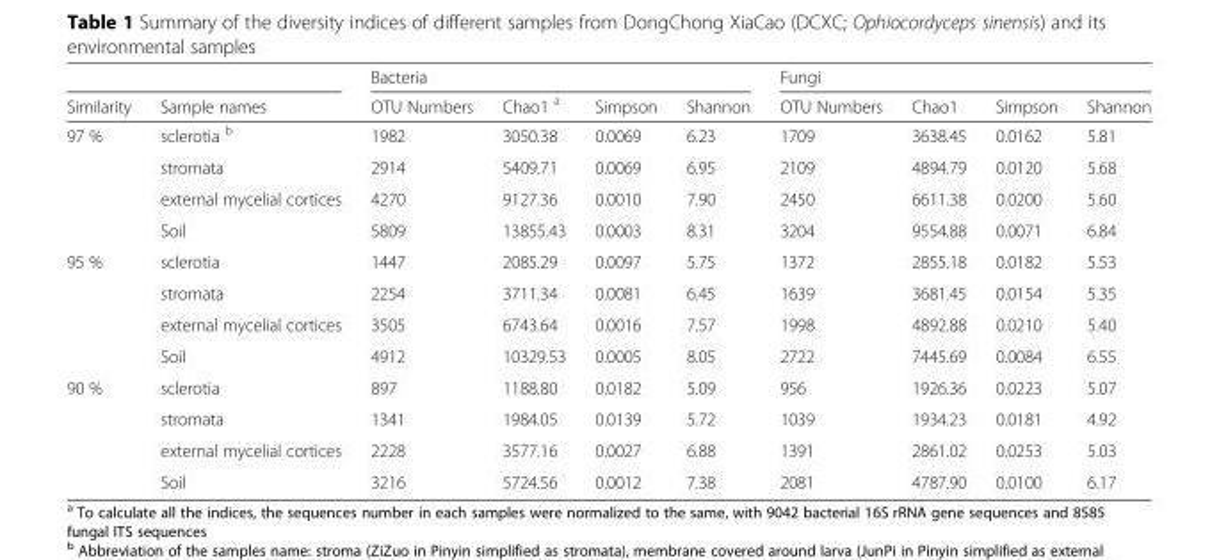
<table><thead><tr><td rowspan="2">Similarity</td><td rowspan="2">Sample names</td><td colspan="4">Bacteria</td><td colspan="4">Fungi</td></tr><tr><td>OTU Numbers</td><td>Chao1 <sup>a</sup></td><td>Simpson</td><td>Shannon</td><td>OTU Numbers</td><td>Chao1</td><td>Simpson</td><td>Shannon</td></tr></thead><tbody><tr><td rowspan="4">97 %</td><td>sclerotia <sup>b</sup></td><td>1982</td><td>3050.38</td><td>0.0069</td><td>6.23</td><td>1709</td><td>3638.45</td><td>0.0162</td><td>5.81</td></tr><tr><td>stromata</td><td>2914</td><td>5409.71</td><td>0.0069</td><td>6.95</td><td>2109</td><td>4894.79</td><td>0.0120</td><td>5.68</td></tr><tr><td>external mycelial cortices</td><td>4270</td><td>9127.36</td><td>0.0010</td><td>7.90</td><td>2450</td><td>6611.38</td><td>0.0200</td><td>5.60</td></tr><tr><td>Soil</td><td>5809</td><td>13855.43</td><td>0.0003</td><td>8.31</td><td>3204</td><td>9554.88</td><td>0.0071</td><td>6.84</td></tr><tr><td rowspan="4">95 %</td><td>sclerotia</td><td>1447</td><td>2085.29</td><td>0.0097</td><td>5.75</td><td>1372</td><td>2855.18</td><td>0.0182</td><td>5.53</td></tr><tr><td>stromata</td><td>2254</td><td>3711.34</td><td>0.0081</td><td>6.45</td><td>1639</td><td>3681.45</td><td>0.0154</td><td>5.35</td></tr><tr><td>external mycelial cortices</td><td>3505</td><td>6743.64</td><td>0.0016</td><td>7.57</td><td>1998</td><td>4892.88</td><td>0.0210</td><td>5.40</td></tr><tr><td>Soil</td><td>4912</td><td>10329.53</td><td>0.0005</td><td>8.05</td><td>2722</td><td>7445.69</td><td>0.0084</td><td>6.55</td></tr><tr><td rowspan="4">90 %</td><td>sclerotia</td><td>897</td><td>1188.80</td><td>0.0182</td><td>5.09</td><td>956</td><td>1926.36</td><td>0.0223</td><td>5.07</td></tr><tr><td>stromata</td><td>1341</td><td>1984.05</td><td>0.0139</td><td>5.72</td><td>1039</td><td>1934.23</td><td>0.0181</td><td>4.92</td></tr><tr><td>external mycelial cortices</td><td>2228</td><td>3577.16</td><td>0.0027</td><td>6.88</td><td>1391</td><td>2861.02</td><td>0.0253</td><td>5.03</td></tr><tr><td>Soil</td><td>3216</td><td>5724.56</td><td>0.0012</td><td>7.38</td><td>2081</td><td>4787.90</td><td>0.0100</td><td>6.17</td></tr></tbody></table>